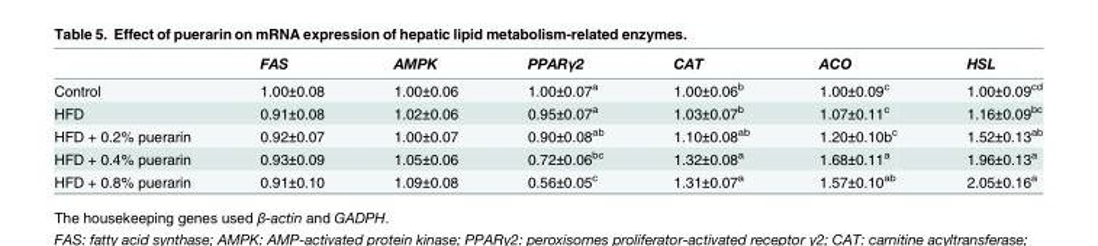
<table><thead><tr><td></td><td>FAS</td><td>AMPK</td><td>PPARγ2</td><td>CAT</td><td>ACO</td><td>HSL</td></tr></thead><tbody><tr><td>Control</td><td>1.00±0.08</td><td>1.00±0.06</td><td>1.00±0.07<sup>a</sup></td><td>1.00±0.06<sup>b</sup></td><td>1.00±0.09<sup>c</sup></td><td>1.00±0.09<sup>cd</sup></td></tr><tr><td>HFD</td><td>0.91±0.08</td><td>1.02±0.06</td><td>0.95±0.07<sup>a</sup></td><td>1.03±0.07<sup>b</sup></td><td>1.07±0.11<sup>c</sup></td><td>1.16±0.09<sup>bc</sup></td></tr><tr><td>HFD + 0.2% puerarin</td><td>0.92±0.07</td><td>1.00±0.07</td><td>0.90±0.08<sup>ab</sup></td><td>1.10±0.08<sup>ab</sup></td><td>1.20±0.10b<sup>c</sup></td><td>1.52±0.13<sup>ab</sup></td></tr><tr><td>HFD + 0.4% puerarin</td><td>0.93±0.09</td><td>1.05±0.06</td><td>0.72±0.06<sup>bc</sup></td><td>1.32±0.08<sup>a</sup></td><td>1.68±0.11<sup>a</sup></td><td>1.96±0.13<sup>a</sup></td></tr><tr><td>HFD + 0.8% puerarin</td><td>0.91±0.10</td><td>1.09±0.08</td><td>0.56±0.05<sup>c</sup></td><td>1.31±0.07<sup>a</sup></td><td>1.57±0.10<sup>ab</sup></td><td>2.05±0.16<sup>a</sup></td></tr></tbody></table>